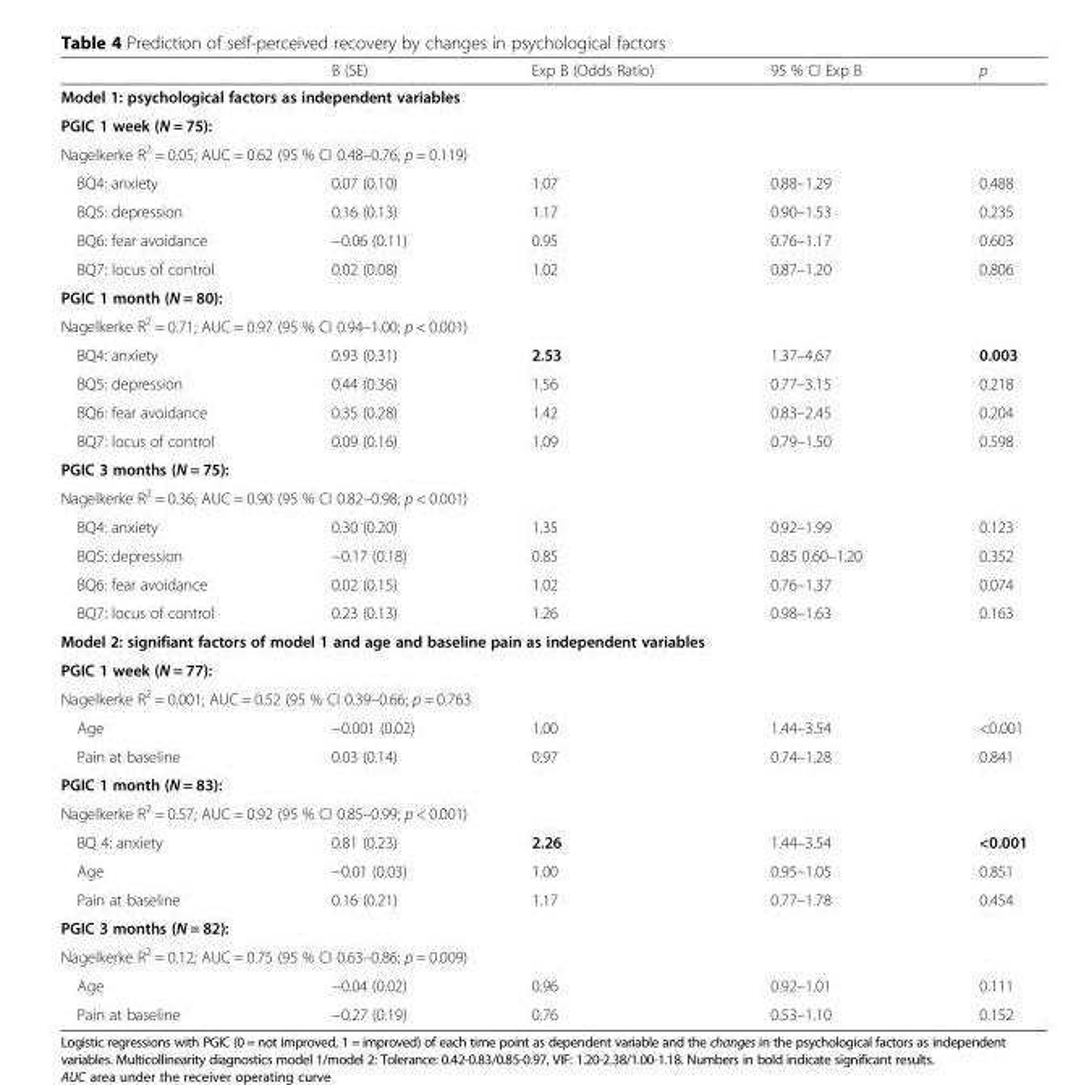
<table><thead><tr><td></td><td>B (SE)</td><td>Exp B (Odds Ratio)</td><td>95 % CI Exp B</td><td>p</td></tr></thead><tbody><tr><td colspan="5">Model 1: psychological factors as independent variables</td></tr><tr><td colspan="5">PGIC 1 week (N = 75):</td></tr><tr><td colspan="5">Nagelkerke R<sup>2</sup> = 0.05; AUC = 0.62 (95 % CI 0.48–0.76; p = 0.119)</td></tr><tr><td>BQ4: anxiety</td><td>0.07 (0.10)</td><td>1.07</td><td>0.88–1.29</td><td>0.488</td></tr><tr><td>BQ5: depression</td><td>0.16 (0.13)</td><td>1.17</td><td>0.90–1.53</td><td>0.235</td></tr><tr><td>BQ6: fear avoidance</td><td>−0.06 (0.11)</td><td>0.95</td><td>0.76–1.17</td><td>0.603</td></tr><tr><td>BQ7: locus of control</td><td>0.02 (0.08)</td><td>1.02</td><td>0.87–1.20</td><td>0.806</td></tr><tr><td colspan="5">PGIC 1 month (N = 80):</td></tr><tr><td colspan="5">Nagelkerke R<sup>2</sup> = 0.71; AUC = 0.97 (95 % CI 0.94–1.00; p &lt; 0.001)</td></tr><tr><td>BQ4: anxiety</td><td>0.93 (0.31)</td><td>2.53</td><td>1.37–4.67</td><td>0.003</td></tr><tr><td>BQ5: depression</td><td>0.44 (0.36)</td><td>1.56</td><td>0.77–3.15</td><td>0.218</td></tr><tr><td>BQ6: fear avoidance</td><td>0.35 (0.28)</td><td>1.42</td><td>0.83–2.45</td><td>0.204</td></tr><tr><td>BQ7: locus of control</td><td>0.09 (0.16)</td><td>1.09</td><td>0.79–1.50</td><td>0.598</td></tr><tr><td colspan="5">PGIC 3 months (N = 75):</td></tr><tr><td colspan="5">Nagelkerke R<sup>2</sup> = 0.36; AUC = 0.90 (95 % CI 0.82–0.98; p &lt; 0.001)</td></tr><tr><td>BQ4: anxiety</td><td>0.30 (0.20)</td><td>1.35</td><td>0.92–1.99</td><td>0.123</td></tr><tr><td>BQ5: depression</td><td>−0.17 (0.18)</td><td>0.85</td><td>0.85 0.60–1.20</td><td>0.352</td></tr><tr><td>BQ6: fear avoidance</td><td>0.02 (0.15)</td><td>1.02</td><td>0.76–1.37</td><td>0.074</td></tr><tr><td>BQ7: locus of control</td><td>0.23 (0.13)</td><td>1.26</td><td>0.98–1.63</td><td>0.163</td></tr><tr><td colspan="5">Model 2: signifiant factors of model 1 and age and baseline pain as independent variables</td></tr><tr><td colspan="5">PGIC 1 week (N = 77):</td></tr><tr><td colspan="5">Nagelkerke R<sup>2</sup> = 0.001; AUC = 0.52 (95 % CI 0.39–0.66; p = 0.763</td></tr><tr><td>Age</td><td>−0.001 (0.02)</td><td>1.00</td><td>1.44–3.54</td><td>&lt;0.001</td></tr><tr><td>Pain at baseline</td><td>0.03 (0.14)</td><td>0.97</td><td>0.74–1.28</td><td>0.841</td></tr><tr><td colspan="5">PGIC 1 month (N = 83):</td></tr><tr><td colspan="5">Nagelkerke R<sup>2</sup> = 0.57; AUC = 0.92 (95 % CI 0.85–0.99; p &lt; 0.001)</td></tr><tr><td>BQ 4: anxiety</td><td>0.81 (0.23)</td><td>2.26</td><td>1.44–3.54</td><td>&lt;0.001</td></tr><tr><td>Age</td><td>−0.01 (0.03)</td><td>1.00</td><td>0.95–1.05</td><td>0.851</td></tr><tr><td>Pain at baseline</td><td>0.16 (0.21)</td><td>1.17</td><td>0.77–1.78</td><td>0.454</td></tr><tr><td colspan="5">PGIC 3 months (N = 82):</td></tr><tr><td colspan="5">Nagelkerke R<sup>2</sup> = 0.12; AUC = 0.75 (95 % CI 0.63–0.86; p = 0.009)</td></tr><tr><td>Age</td><td>−0.04 (0.02)</td><td>0.96</td><td>0.92–1.01</td><td>0.111</td></tr><tr><td>Pain at baseline</td><td>−0.27 (0.19)</td><td>0.76</td><td>0.53–1.10</td><td>0.152</td></tr></tbody></table>